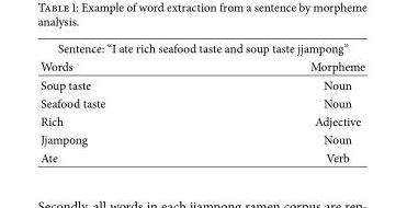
<table><thead><tr><td colspan="2">Sentence: “I ate rich seafood taste and soup taste jjampong”</td></tr><tr><td>Words</td><td>Morpheme</td></tr></thead><tbody><tr><td>Soup taste</td><td>Noun</td></tr><tr><td>Seafood taste</td><td>Noun</td></tr><tr><td>Rich</td><td>Adjective</td></tr><tr><td>Jjampong</td><td>Noun</td></tr><tr><td>Ate</td><td>Verb</td></tr></tbody></table>